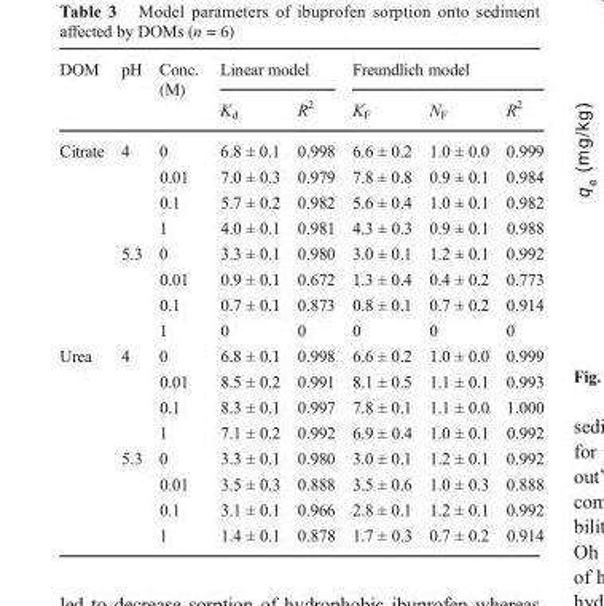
<table><thead><tr><td rowspan="2">DOM</td><td rowspan="2">pH</td><td rowspan="2">Conc. (M)</td><td colspan="2">Linear model</td><td colspan="3">Freundlich model</td></tr><tr><td>K<sub>d</sub></td><td>R<sup>2</sup></td><td>K<sub>F</sub></td><td>N<sub>F</sub></td><td>R<sup>2</sup></td></tr></thead><tbody><tr><td rowspan="8">Citrate</td><td rowspan="4">4</td><td>0</td><td>6.8 ± 0.1</td><td>0.998</td><td>6.6 ± 0.2</td><td>1.0 ± 0.0</td><td>0.999</td></tr><tr><td>0.01</td><td>7.0 ± 0.3</td><td>0.979</td><td>7.8 ± 0.8</td><td>0.9 ± 0.1</td><td>0.984</td></tr><tr><td>0.1</td><td>5.7 ± 0.2</td><td>0.982</td><td>5.6 ± 0.4</td><td>1.0 ± 0.1</td><td>0.982</td></tr><tr><td>1</td><td>4.0 ± 0.1</td><td>0.981</td><td>4.3 ± 0.3</td><td>0.9 ± 0.1</td><td>0.988</td></tr><tr><td rowspan="4">5.3</td><td>0</td><td>3.3 ± 0.1</td><td>0.980</td><td>3.0 ± 0.1</td><td>1.2 ± 0.1</td><td>0.992</td></tr><tr><td>0.01</td><td>0.9 ± 0.1</td><td>0.672</td><td>1.3 ± 0.4</td><td>0.4 ± 0.2</td><td>0.773</td></tr><tr><td>0.1</td><td>0.7 ± 0.1</td><td>0.873</td><td>0.8 ± 0.1</td><td>0.7 ± 0.2</td><td>0.914</td></tr><tr><td>1</td><td>0</td><td>0</td><td>0</td><td>0</td><td>0</td></tr><tr><td rowspan="8">Urea</td><td rowspan="4">4</td><td>0</td><td>6.8 ± 0.1</td><td>0.998</td><td>6.6 ± 0.2</td><td>1.0 ± 0.0</td><td>0.999</td></tr><tr><td>0.01</td><td>8.5 ± 0.2</td><td>0.991</td><td>8.1 ± 0.5</td><td>1.1 ± 0.1</td><td>0.993</td></tr><tr><td>0.1</td><td>8.3 ± 0.1</td><td>0.997</td><td>7.8 ± 0.1</td><td>1.1 ± 0.0</td><td>1.000</td></tr><tr><td>1</td><td>7.1 ± 0.2</td><td>0.992</td><td>6.9 ± 0.4</td><td>1.0 ± 0.1</td><td>0.992</td></tr><tr><td rowspan="4">5.3</td><td>0</td><td>3.3 ± 0.1</td><td>0.980</td><td>3.0 ± 0.1</td><td>1.2 ± 0.1</td><td>0.992</td></tr><tr><td>0.01</td><td>3.5 ± 0.3</td><td>0.888</td><td>3.5 ± 0.6</td><td>1.0 ± 0.3</td><td>0.888</td></tr><tr><td>0.1</td><td>3.1 ± 0.1</td><td>0.966</td><td>2.8 ± 0.1</td><td>1.2 ± 0.1</td><td>0.992</td></tr><tr><td>1</td><td>1.4 ± 0.1</td><td>0.878</td><td>1.7 ± 0.3</td><td>0.7 ± 0.2</td><td>0.914</td></tr></tbody></table>